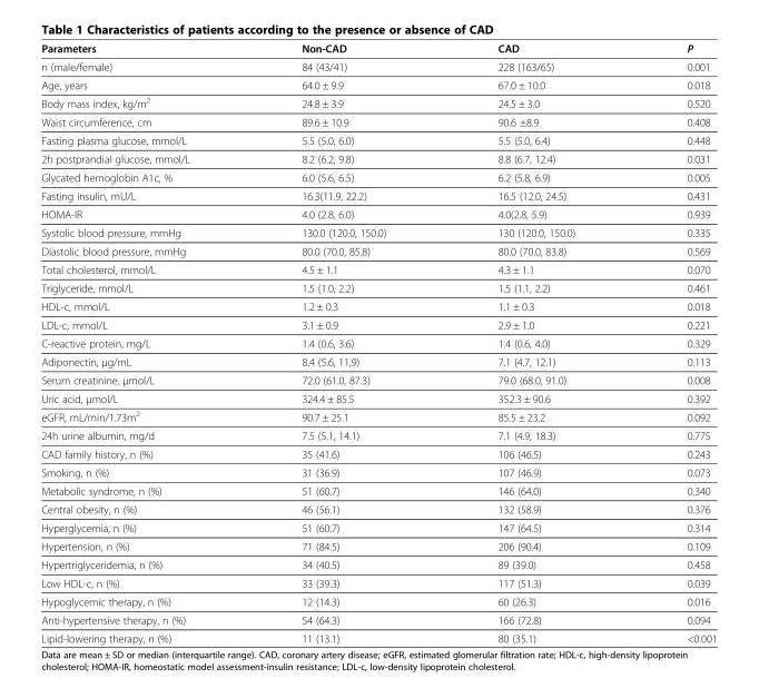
<table><thead><tr><td>Parameters</td><td>Non-CAD</td><td>CAD</td><td>P</td></tr></thead><tbody><tr><td>n (male/female)</td><td>84 (43/41)</td><td>228 (163/65)</td><td>0.001</td></tr><tr><td>Age, years</td><td>64.0 ± 9.9</td><td>67.0 ± 10.0</td><td>0.018</td></tr><tr><td>Body mass index, kg/m<sup>2</sup></td><td>24.8 ± 3.9</td><td>24.5 ± 3.0</td><td>0.520</td></tr><tr><td>Waist circumference, cm</td><td>89.6 ± 10.9</td><td>90.6 ±8.9</td><td>0.408</td></tr><tr><td>Fasting plasma glucose, mmol/L</td><td>5.5 (5.0, 6.0)</td><td>5.5 (5.0, 6.4)</td><td>0.448</td></tr><tr><td>2h postprandial glucose, mmol/L</td><td>8.2 (6.2, 9.8)</td><td>8.8 (6.7, 12.4)</td><td>0.031</td></tr><tr><td>Glycated hemoglobin A1c, %</td><td>6.0 (5.6, 6.5)</td><td>6.2 (5.8, 6.9)</td><td>0.005</td></tr><tr><td>Fasting insulin, mU/L</td><td>16.3(11.9, 22.2)</td><td>16.5 (12.0, 24.5)</td><td>0.431</td></tr><tr><td>HOMA-IR</td><td>4.0 (2.8, 6.0)</td><td>4.0(2.8, 5.9)</td><td>0.939</td></tr><tr><td>Systolic blood pressure, mmHg</td><td>130.0 (120.0, 150.0)</td><td>130 (120.0, 150.0)</td><td>0.335</td></tr><tr><td>Diastolic blood pressure, mmHg</td><td>80.0 (70.0, 85.8)</td><td>80.0 (70.0, 83.8)</td><td>0.569</td></tr><tr><td>Total cholesterol, mmol/L</td><td>4.5 ± 1.1</td><td>4.3 ± 1.1</td><td>0.070</td></tr><tr><td>Triglyceride, mmol/L</td><td>1.5 (1.0, 2.2)</td><td>1.5 (1.1, 2.2)</td><td>0.461</td></tr><tr><td>HDL-c, mmol/L</td><td>1.2 ± 0.3</td><td>1.1 ± 0.3</td><td>0.018</td></tr><tr><td>LDL-c, mmol/L</td><td>3.1 ± 0.9</td><td>2.9 ± 1.0</td><td>0.221</td></tr><tr><td>C-reactive protein, mg/L</td><td>1.4 (0.6, 3.6)</td><td>1.4 (0.6, 4.0)</td><td>0.329</td></tr><tr><td>Adiponectin, μg/mL</td><td>8.4 (5.6, 11,9)</td><td>7.1 (4.7, 12.1)</td><td>0.113</td></tr><tr><td>Serum creatinine, μmol/L</td><td>72.0 (61.0, 87.3)</td><td>79.0 (68.0, 91.0)</td><td>0.008</td></tr><tr><td>Uric acid, μmol/L</td><td>324.4 ± 85.5</td><td>352.3 ± 90.6</td><td>0.392</td></tr><tr><td>eGFR, mL/min/1.73m<sup>2</sup></td><td>90.7 ± 25.1</td><td>85.5 ± 23.2</td><td>0.092</td></tr><tr><td>24h urine albumin, mg/d</td><td>7.5 (5.1, 14.1)</td><td>7.1 (4.9, 18.3)</td><td>0.775</td></tr><tr><td>CAD family history, n (%)</td><td>35 (41.6)</td><td>106 (46.5)</td><td>0.243</td></tr><tr><td>Smoking, n (%)</td><td>31 (36.9)</td><td>107 (46.9)</td><td>0.073</td></tr><tr><td>Metabolic syndrome, n (%)</td><td>51 (60.7)</td><td>146 (64.0)</td><td>0.340</td></tr><tr><td>Central obesity, n (%)</td><td>46 (56.1)</td><td>132 (58.9)</td><td>0.376</td></tr><tr><td>Hyperglycemia, n (%)</td><td>51 (60.7)</td><td>147 (64.5)</td><td>0.314</td></tr><tr><td>Hypertension, n (%)</td><td>71 (84.5)</td><td>206 (90.4)</td><td>0.109</td></tr><tr><td>Hypertriglyceridemia, n (%)</td><td>34 (40.5)</td><td>89 (39.0)</td><td>0.458</td></tr><tr><td>Low HDL-c, n (%)</td><td>33 (39.3)</td><td>117 (51.3)</td><td>0.039</td></tr><tr><td>Hypoglycemic therapy, n (%)</td><td>12 (14.3)</td><td>60 (26.3)</td><td>0.016</td></tr><tr><td>Anti-hypertensive therapy, n (%)</td><td>54 (64.3)</td><td>166 (72.8)</td><td>0.094</td></tr><tr><td>Lipid-lowering therapy, n (%)</td><td>11 (13.1)</td><td>80 (35.1)</td><td>&lt;0.001</td></tr></tbody></table>